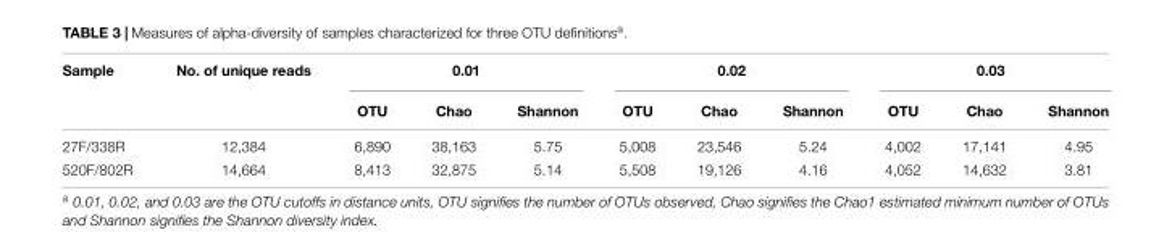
<table><thead><tr><td rowspan="2">Sample</td><td rowspan="2">No. of unique reads</td><td colspan="3">0.01</td><td colspan="3">0.02</td><td colspan="3">0.03</td></tr><tr><td>OTU</td><td>Chao</td><td>Shannon</td><td>OTU</td><td>Chao</td><td>Shannon</td><td>OTU</td><td>Chao</td><td>Shannon</td></tr></thead><tbody><tr><td>27F/338R</td><td>12,384</td><td>6,890</td><td>38,163</td><td>5.75</td><td>5,008</td><td>23,546</td><td>5.24</td><td>4,002</td><td>17,141</td><td>4.95</td></tr><tr><td>520F/802R</td><td>14,664</td><td>8,413</td><td>32,875</td><td>5.14</td><td>5,508</td><td>19,126</td><td>4.16</td><td>4,052</td><td>14,632</td><td>3.81</td></tr></tbody></table>